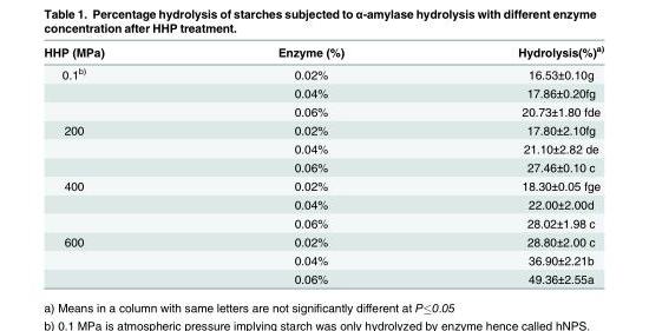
<table><thead><tr><td>HHP (MPa)</td><td>Enzyme (%)</td><td>Hydrolysis(%)<sup>a)</sup></td></tr></thead><tbody><tr><td rowspan="3">0.1<sup>b)</sup></td><td>0.02%</td><td>16.53±0.10g</td></tr><tr><td>0.04%</td><td>17.86±0.20fg</td></tr><tr><td>0.06%</td><td>20.73±1.80 fde</td></tr><tr><td rowspan="3">200</td><td>0.02%</td><td>17.80±2.10fg</td></tr><tr><td>0.04%</td><td>21.10±2.82 de</td></tr><tr><td>0.06%</td><td>27.46±0.10 c</td></tr><tr><td rowspan="3">400</td><td>0.02%</td><td>18.30±0.05 fge</td></tr><tr><td>0.04%</td><td>22.00±2.00d</td></tr><tr><td>0.06%</td><td>28.02±1.98 c</td></tr><tr><td rowspan="3">600</td><td>0.02%</td><td>28.80±2.00 c</td></tr><tr><td>0.04%</td><td>36.90±2.21b</td></tr><tr><td>0.06%</td><td>49.36±2.55a</td></tr></tbody></table>